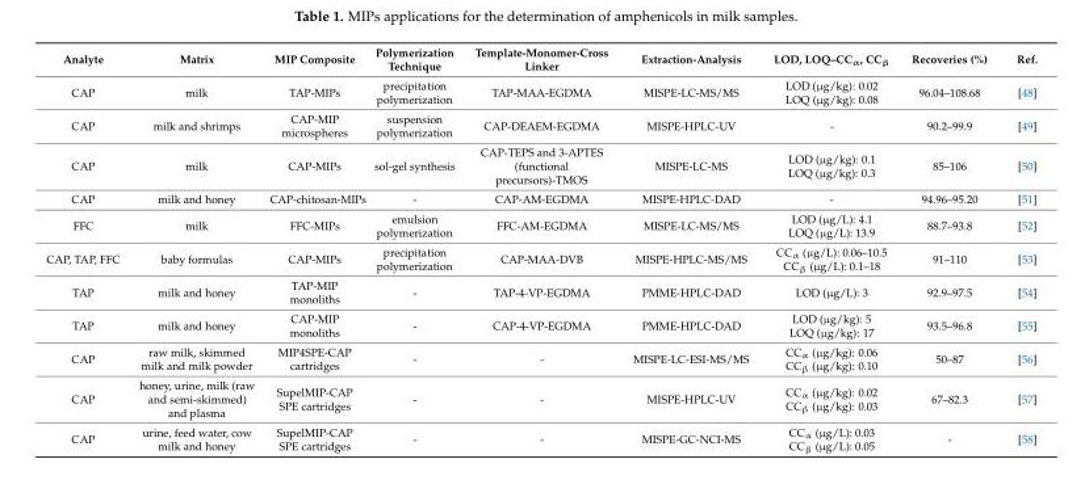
<table><thead><tr><td>Analyte</td><td>Matrix</td><td>MIP Composite</td><td>Polymerization Technique</td><td>Template-Monomer-Cross Linker</td><td>Extraction-Analysis</td><td>LOD, LOQ–CC<sub>α</sub>, CC<sub>β</sub></td><td>Recoveries (%)</td><td>Ref.</td></tr></thead><tbody><tr><td>CAP</td><td>milk</td><td>TAP-MIPs</td><td>precipitation polymerization</td><td>TAP-MAA-EGDMA</td><td>MISPE-LC-MS/MS</td><td>LOD (µg/kg): 0.02 LOQ (µg/kg): 0.08</td><td>96.04–108.68</td><td>[48]</td></tr><tr><td>CAP</td><td>milk and shrimps</td><td>CAP-MIP microspheres</td><td>suspension polymerization</td><td>CAP-DEAEM-EGDMA</td><td>MISPE-HPLC-UV</td><td>-</td><td>90.2–99.9</td><td>[49]</td></tr><tr><td>CAP</td><td>milk</td><td>CAP-MIPs</td><td>sol-gel synthesis</td><td>CAP-TEPS and 3-APTES (functional precursors)-TMOS</td><td>MISPE-LC-MS</td><td>LOD (µg/kg): 0.1 LOQ (µg/kg): 0.3</td><td>85–106</td><td>[50]</td></tr><tr><td>CAP</td><td>milk and honey</td><td>CAP-chitosan-MIPs</td><td>-</td><td>CAP-AM-EGDMA</td><td>MISPE-HPLC-DAD</td><td>-</td><td>94.96–95.20</td><td>[51]</td></tr><tr><td>FFC</td><td>milk</td><td>FFC-MIPs</td><td>emulsion polymerization</td><td>FFC-AM-EGDMA</td><td>MISPE-LC-MS/MS</td><td>LOD (µg/L): 4.1 LOQ (µg/L): 13.9</td><td>88.7–93.8</td><td>[52]</td></tr><tr><td>CAP, TAP, FFC</td><td>baby formulas</td><td>CAP-MIPs</td><td>precipitation polymerization</td><td>CAP-MAA-DVB</td><td>MISPE-HPLC-MS/MS</td><td>CC<sub>α</sub> (µg/L): 0.06–10.5 CC<sub>β</sub> (µg/L): 0.1–18</td><td>91–110</td><td>[53]</td></tr><tr><td>TAP</td><td>milk and honey</td><td>TAP-MIP monoliths</td><td>-</td><td>TAP-4-VP-EGDMA</td><td>PMME-HPLC-DAD</td><td>LOD (µg/L): 3</td><td>92.9–97.5</td><td>[54]</td></tr><tr><td>TAP</td><td>milk and honey</td><td>CAP-MIP monoliths</td><td>-</td><td>CAP-4-VP-EGDMA</td><td>PMME-HPLC-DAD</td><td>LOD (µg/kg): 5 LOQ (µg/kg): 17</td><td>93.5–96.8</td><td>[55]</td></tr><tr><td>CAP</td><td>raw milk, skimmed milk and milk powder</td><td>MIP4SPE-CAP cartridges</td><td>-</td><td>-</td><td>MISPE-LC-ESI-MS/MS</td><td>CC<sub>α</sub> (µg/kg): 0.06 CC<sub>β</sub> (µg/kg): 0.10</td><td>50–87</td><td>[56]</td></tr><tr><td>CAP</td><td>honey, urine, milk (raw and semi-skimmed) and plasma</td><td>SupelMIP-CAP SPE cartridges</td><td>-</td><td>-</td><td>MISPE-HPLC-UV</td><td>CC<sub>α</sub> (µg/kg): 0.02 CC<sub>β</sub> (µg/kg): 0.03</td><td>67–82.3</td><td>[57]</td></tr><tr><td>CAP</td><td>urine, feed water, cow milk and honey</td><td>SupelMIP-CAP SPE cartridges</td><td>-</td><td>-</td><td>MISPE-GC-NCI-MS</td><td>CC<sub>α</sub> (µg/L): 0.03 CC<sub>β</sub> (µg/L): 0.05</td><td>-</td><td>[58]</td></tr></tbody></table>